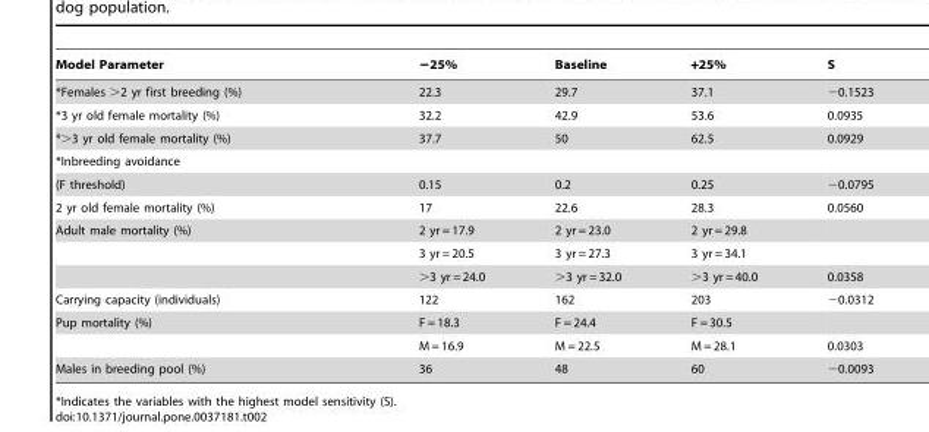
<table><thead><tr><td>Model Parameter</td><td>−25%</td><td>Baseline</td><td>+25%</td><td>S</td></tr></thead><tbody><tr><td>*Females &gt;2 yr first breeding (%)</td><td>22.3</td><td>29.7</td><td>37.1</td><td>−0.1523</td></tr><tr><td>*3 yr old female mortality (%)</td><td>32.2</td><td>42.9</td><td>53.6</td><td>0.0935</td></tr><tr><td>*&gt;3 yr old female mortality (%)</td><td>37.7</td><td>50</td><td>62.5</td><td>0.0929</td></tr><tr><td colspan="5">*Inbreeding avoidance</td></tr><tr><td>(F threshold)</td><td>0.15</td><td>0.2</td><td>0.25</td><td>−0.0795</td></tr><tr><td>2 yr old female mortality (%)</td><td>17</td><td>22.6</td><td>28.3</td><td>0.0560</td></tr><tr><td rowspan="3">Adult male mortality (%)</td><td>2 yr = 17.9</td><td>2 yr = 23.0</td><td>2 yr = 29.8</td><td></td></tr><tr><td>3 yr = 20.5</td><td>3 yr = 27.3</td><td>3 yr = 34.1</td><td></td></tr><tr><td>&gt;3 yr = 24.0</td><td>&gt;3 yr = 32.0</td><td>&gt;3 yr = 40.0</td><td>0.0358</td></tr><tr><td>Carrying capacity (individuals)</td><td>122</td><td>162</td><td>203</td><td>−0.0312</td></tr><tr><td rowspan="2">Pup mortality (%)</td><td>F = 18.3</td><td>F = 24.4</td><td>F = 30.5</td><td></td></tr><tr><td>M = 16.9</td><td>M = 22.5</td><td>M = 28.1</td><td>0.0303</td></tr><tr><td>Males in breeding pool (%)</td><td>36</td><td>48</td><td>60</td><td>−0.0093</td></tr></tbody></table>